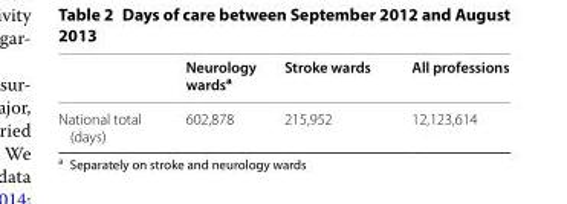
<table><thead><tr><td></td><td>Neurology wards<sup>a</sup></td><td>Stroke wards</td><td>All professions</td></tr></thead><tbody><tr><td>National total (days)</td><td>602,878</td><td>215,952</td><td>12,123,614</td></tr></tbody></table>